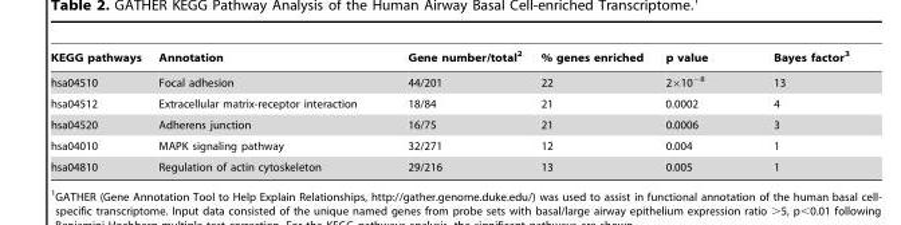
<table><thead><tr><td>KEGG pathways</td><td>Annotation</td><td>Gene number/total<sup>2</sup></td><td>% genes enriched</td><td>p value</td><td>Bayes factor<sup>3</sup></td></tr></thead><tbody><tr><td>hsa04510</td><td>Focal adhesion</td><td>44/201</td><td>22</td><td>2×10<sup>−8</sup></td><td>13</td></tr><tr><td>hsa04512</td><td>Extracellular matrix-receptor interaction</td><td>18/84</td><td>21</td><td>0.0002</td><td>4</td></tr><tr><td>hsa04520</td><td>Adherens junction</td><td>16/75</td><td>21</td><td>0.0006</td><td>3</td></tr><tr><td>hsa04010</td><td>MAPK signaling pathway</td><td>32/271</td><td>12</td><td>0.004</td><td>1</td></tr><tr><td>hsa04810</td><td>Regulation of actin cytoskeleton</td><td>29/216</td><td>13</td><td>0.005</td><td>1</td></tr></tbody></table>